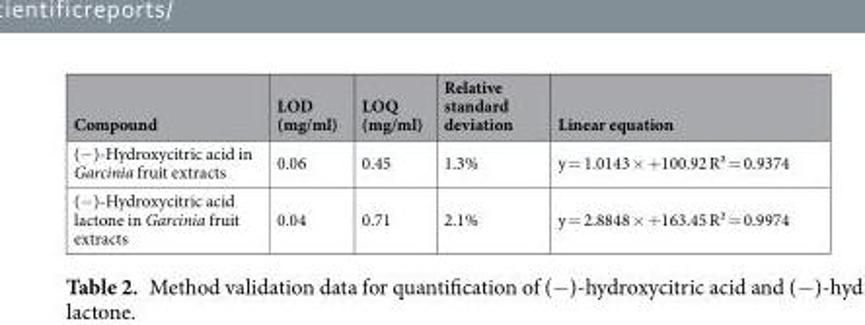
<table><thead><tr><td>Compound</td><td>LOD (mg/ml)</td><td>LOQ (mg/ml)</td><td>Relative standard deviation</td><td>Linear equation</td></tr></thead><tbody><tr><td>(−)-Hydroxycitric acid in Garcinia fruit extracts</td><td>0.06</td><td>0.45</td><td>1.3%</td><td>y = 1.0143 × +100.92 R² = 0.9374</td></tr><tr><td>(−)-Hydroxycitric acid lactone in Garcinia fruit extracts</td><td>0.04</td><td>0.71</td><td>2.1%</td><td>y = 2.8848 × +163.45 R² = 0.9974</td></tr></tbody></table>